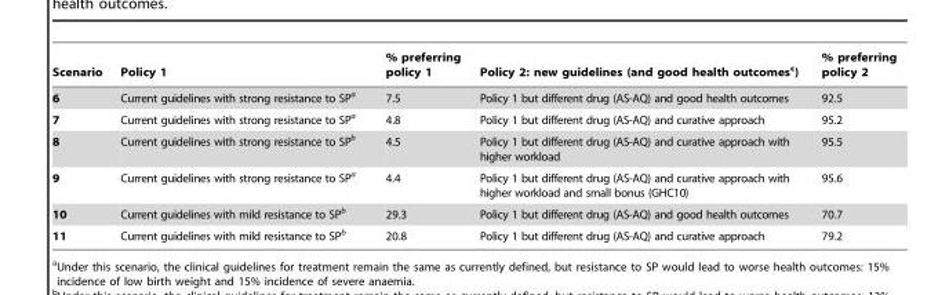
<table><thead><tr><td>Scenario</td><td>Policy 1</td><td>% preferring policy 1</td><td>Policy 2: new guidelines (and good health outcomes<sup>c</sup>)</td><td>% preferring policy 2</td></tr></thead><tbody><tr><td>6</td><td>Current guidelines with strong resistance to SP<sup>a</sup></td><td>7.5</td><td>Policy 1 but different drug (AS-AQ) and good health outcomes</td><td>92.5</td></tr><tr><td>7</td><td>Current guidelines with strong resistance to SP<sup>a</sup></td><td>4.8</td><td>Policy 1 but different drug (AS-AQ) and curative approach</td><td>95.2</td></tr><tr><td>8</td><td>Current guidelines with strong resistance to SP<sup>b</sup></td><td>4.5</td><td>Policy 1 but different drug (AS-AQ) and curative approach with higher workload</td><td>95.5</td></tr><tr><td>9</td><td>Current guidelines with strong resistance to SP<sup>a</sup></td><td>4.4</td><td>Policy 1 but different drug (AS-AQ) and curative approach with higher workload and small bonus (GHC10)</td><td>95.6</td></tr><tr><td>10</td><td>Current guidelines with mild resistance to SP<sup>b</sup></td><td>29.3</td><td>Policy 1 but different drug (AS-AQ) and good health outcomes</td><td>70.7</td></tr><tr><td>11</td><td>Current guidelines with mild resistance to SP<sup>b</sup></td><td>20.8</td><td>Policy 1 but different drug (AS-AQ) and curative approach</td><td>79.2</td></tr></tbody></table>